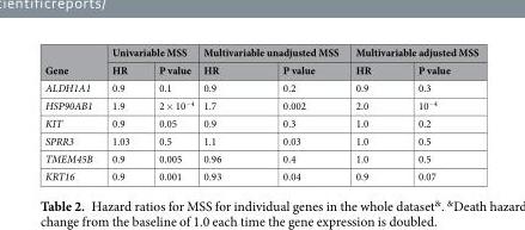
<table><thead><tr><td rowspan="2">Gene</td><td colspan="2">Univariable MSS</td><td colspan="2">Multivariable unadjusted MSS</td><td colspan="2">Multivariable adjusted MSS</td></tr><tr><td>HR</td><td>P value</td><td>HR</td><td>P value</td><td>HR</td><td>P value</td></tr></thead><tbody><tr><td>ALDH1A1</td><td>0.9</td><td>0.1</td><td>0.9</td><td>0.2</td><td>0.9</td><td>0.3</td></tr><tr><td>HSP90AB1</td><td>1.9</td><td>2 × 10<sup>−4</sup></td><td>1.7</td><td>0.002</td><td>2.0</td><td>10<sup>−4</sup></td></tr><tr><td>KIT</td><td>0.9</td><td>0.05</td><td>0.9</td><td>0.3</td><td>1.0</td><td>0.2</td></tr><tr><td>SPRR3</td><td>1.03</td><td>0.5</td><td>1.1</td><td>0.03</td><td>1.0</td><td>0.5</td></tr><tr><td>TMEM45B</td><td>0.9</td><td>0.005</td><td>0.96</td><td>0.4</td><td>1.0</td><td>0.5</td></tr><tr><td>KRT16</td><td>0.9</td><td>0.001</td><td>0.93</td><td>0.04</td><td>0.9</td><td>0.07</td></tr></tbody></table>